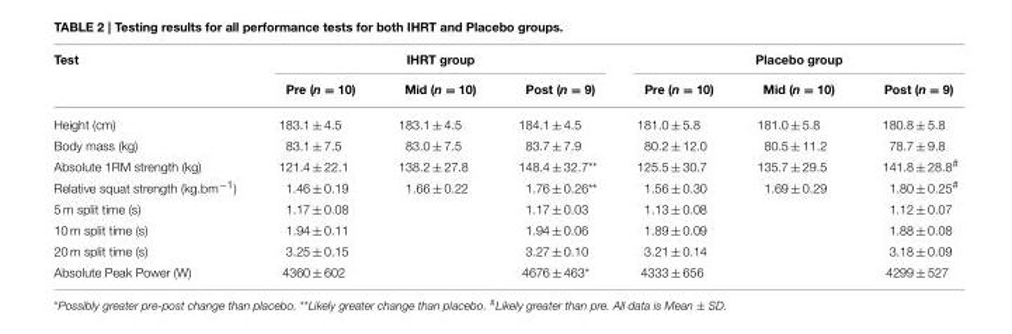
<table><thead><tr><td rowspan="2">Test</td><td colspan="3">IHRT group</td><td colspan="3">Placebo group</td></tr><tr><td>Pre (n = 10)</td><td>Mid (n = 10)</td><td>Post (n = 9)</td><td>Pre (n = 10)</td><td>Mid (n = 10)</td><td>Post (n = 9)</td></tr></thead><tbody><tr><td>Height (cm)</td><td>183.1 ± 4.5</td><td>183.1 ± 4.5</td><td>184.1 ± 4.5</td><td>181.0 ± 5.8</td><td>181.0 ± 5.8</td><td>180.8 ± 5.8</td></tr><tr><td>Body mass (kg)</td><td>83.1 ± 7.5</td><td>83.0 ± 7.5</td><td>83.7 ± 7.9</td><td>80.2 ± 12.0</td><td>80.5 ± 11.2</td><td>78.7 ± 9.8</td></tr><tr><td>Absolute 1RM strength (kg)</td><td>121.4 ± 22.1</td><td>138.2 ± 27.8</td><td>148.4 ± 32.7**</td><td>125.5 ± 30.7</td><td>135.7 ± 29.5</td><td>141.8 ± 28.8<sup>#</sup></td></tr><tr><td>Relative squat strength (kg.bm<sup>−1</sup>)</td><td>1.46 ± 0.19</td><td>1.66 ± 0.22</td><td>1.76 ± 0.26**</td><td>1.56 ± 0.30</td><td>1.69 ± 0.29</td><td>1.80 ± 0.25<sup>#</sup></td></tr><tr><td>5 m split time (s)</td><td>1.17 ± 0.08</td><td></td><td>1.17 ± 0.03</td><td>1.13 ± 0.08</td><td></td><td>1.12 ± 0.07</td></tr><tr><td>10 m split time (s)</td><td>1.94 ± 0.11</td><td></td><td>1.94 ± 0.06</td><td>1.89 ± 0.09</td><td></td><td>1.88 ± 0.08</td></tr><tr><td>20 m split time (s)</td><td>3.25 ± 0.15</td><td></td><td>3.27 ± 0.10</td><td>3.21 ± 0.14</td><td></td><td>3.18 ± 0.09</td></tr><tr><td>Absolute Peak Power (W)</td><td>4360 ± 602</td><td></td><td>4676 ± 463*</td><td>4333 ± 656</td><td></td><td>4299 ± 527</td></tr></tbody></table>